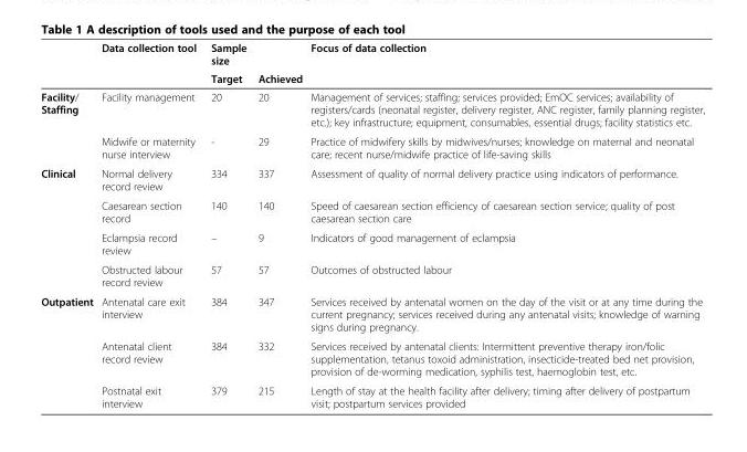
<table><thead><tr><td rowspan="2"></td><td rowspan="2">Data collection tool</td><td rowspan="2">Sample size Target</td><td rowspan="2">Achieved</td><td rowspan="2">Focus of data collection</td></tr><tr></tr></thead><tbody><tr><td rowspan="2">Facility/ Staffing</td><td>Facility management</td><td>20</td><td>20</td><td>Management of services; staffing; services provided; EmOC services; availability of registers/cards (neonatal register, delivery register, ANC register, family planning register, etc.); key infrastructure; equipment, consumables, essential drugs; facility statistics etc.</td></tr><tr><td>Midwife or maternity nurse interview</td><td>-</td><td>29</td><td>Practice of midwifery skills by midwives/nurses; knowledge on maternal and neonatal care; recent nurse/midwife practice of life-saving skills</td></tr><tr><td rowspan="4">Clinical</td><td>Normal delivery record review</td><td>334</td><td>337</td><td>Assessment of quality of normal delivery practice using indicators of performance.</td></tr><tr><td>Caesarean section record</td><td>140</td><td>140</td><td>Speed of caesarean section efficiency of caesarean section service; quality of post caesarean section care</td></tr><tr><td>Eclampsia record review</td><td>–</td><td>9</td><td>Indicators of good management of eclampsia</td></tr><tr><td>Obstructed labour record review</td><td>57</td><td>57</td><td>Outcomes of obstructed labour</td></tr><tr><td rowspan="3">Outpatient</td><td>Antenatal care exit interview</td><td>384</td><td>347</td><td>Services received by antenatal women on the day of the visit or at any time during the current pregnancy; services received during any antenatal visits; knowledge of warning signs during pregnancy.</td></tr><tr><td>Antenatal client record review</td><td>384</td><td>332</td><td>Services received by antenatal clients: Intermittent preventive therapy iron/folic supplementation, tetanus toxoid administration, insecticide-treated bed net provision, provision of de-worming medication, syphilis test, haemoglobin test, etc.</td></tr><tr><td>Postnatal exit interview</td><td>379</td><td>215</td><td>Length of stay at the health facility after delivery; timing after delivery of postpartum visit; postpartum services provided</td></tr></tbody></table>